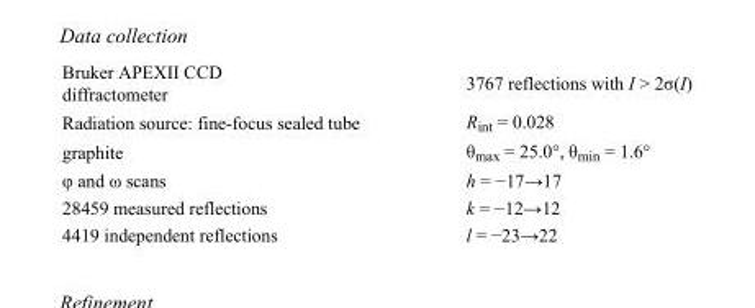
<table><tbody><tr><td>Bruker APEXII CCD diffractometer</td><td>3767 reflections with I &gt; 2σ(I)</td></tr><tr><td>Radiation source: fine-focus sealed tube</td><td>R<sub>int</sub> = 0.028</td></tr><tr><td>graphite</td><td>θ<sub>max</sub> = 25.0°, θ<sub>min</sub> = 1.6°</td></tr><tr><td>φ and ω scans</td><td>h = −17→17</td></tr><tr><td>28459 measured reflections</td><td>k = −12→12</td></tr><tr><td>4419 independent reflections</td><td>l = −23→22</td></tr></tbody></table>